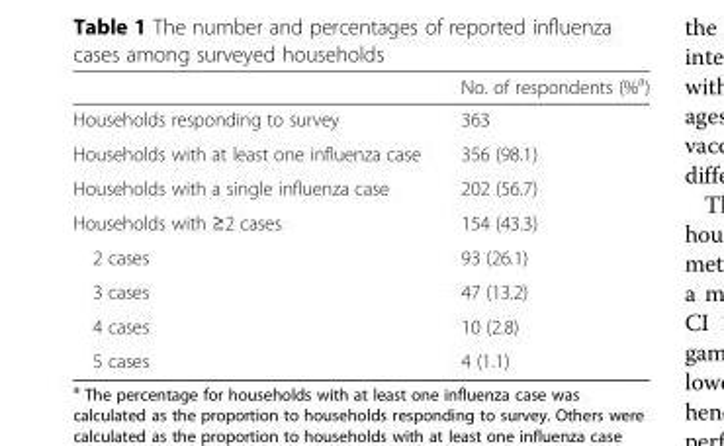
<table><thead><tr><td></td><td>No. of respondents (%<sup>a</sup>)</td></tr></thead><tbody><tr><td>Households responding to survey</td><td>363</td></tr><tr><td>Households with at least one influenza case</td><td>356 (98.1)</td></tr><tr><td>Households with a single influenza case</td><td>202 (56.7)</td></tr><tr><td>Households with ≥2 cases</td><td>154 (43.3)</td></tr><tr><td>2 cases</td><td>93 (26.1)</td></tr><tr><td>3 cases</td><td>47 (13.2)</td></tr><tr><td>4 cases</td><td>10 (2.8)</td></tr><tr><td>5 cases</td><td>4 (1.1)</td></tr></tbody></table>